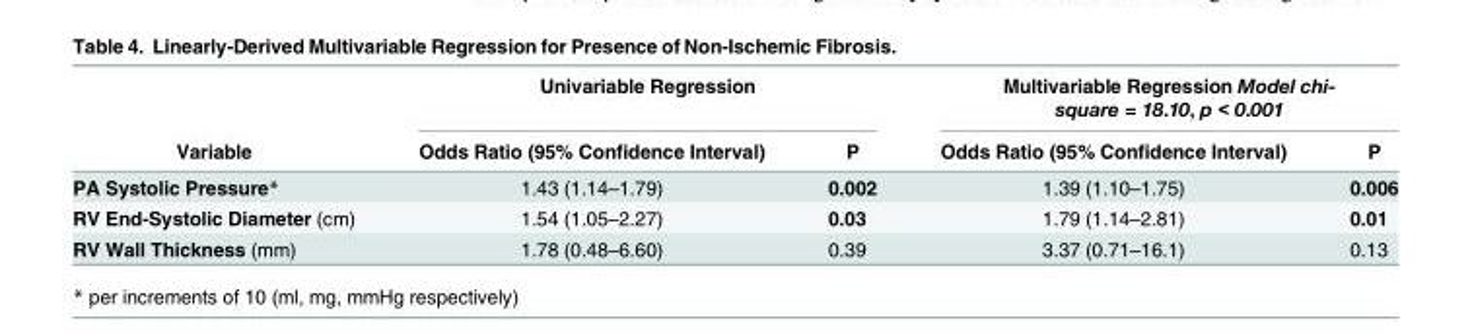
<table><thead><tr><td rowspan="2">Variable</td><td colspan="2">Univariable Regression</td><td colspan="2">Multivariable Regression Model chi- square = 18.10, p &lt; 0.001</td></tr><tr><td>Odds Ratio (95% Confidence Interval)</td><td>P</td><td>Odds Ratio (95% Confidence Interval)</td><td>P</td></tr></thead><tbody><tr><td>PA Systolic Pressure*</td><td>1.43 (1.14–1.79)</td><td>0.002</td><td>1.39 (1.10–1.75)</td><td>0.006</td></tr><tr><td>RV End-Systolic Diameter (cm)</td><td>1.54 (1.05–2.27)</td><td>0.03</td><td>1.79 (1.14–2.81)</td><td>0.01</td></tr><tr><td>RV Wall Thickness (mm)</td><td>1.78 (0.48–6.60)</td><td>0.39</td><td>3.37 (0.71–16.1)</td><td>0.13</td></tr></tbody></table>